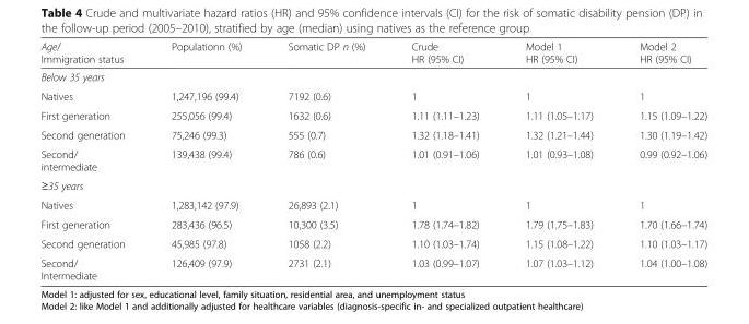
<table><thead><tr><td>Age/ Immigration status</td><td>Populationn (%)</td><td>Somatic DP n (%)</td><td>Crude HR (95% CI)</td><td>Model 1 HR (95% CI)</td><td>Model 2 HR (95% CI)</td></tr></thead><tbody><tr><td colspan="6">Below 35 years</td></tr><tr><td>Natives</td><td>1,247,196 (99.4)</td><td>7192 (0.6)</td><td>1</td><td>1</td><td>1</td></tr><tr><td>First generation</td><td>255,056 (99.4)</td><td>1632 (0.6)</td><td>1.11 (1.11–1.23)</td><td>1.11 (1.05–1.17)</td><td>1.15 (1.09–1.22)</td></tr><tr><td>Second generation</td><td>75,246 (99.3)</td><td>555 (0.7)</td><td>1.32 (1.18–1.41)</td><td>1.32 (1.21–1.44)</td><td>1.30 (1.19–1.42)</td></tr><tr><td>Second/ intermediate</td><td>139,438 (99.4)</td><td>786 (0.6)</td><td>1.01 (0.91–1.06)</td><td>1.01 (0.93–1.08)</td><td>0.99 (0.92–1.06)</td></tr><tr><td colspan="6">≥35 years</td></tr><tr><td>Natives</td><td>1,283,142 (97.9)</td><td>26,893 (2.1)</td><td>1</td><td>1</td><td>1</td></tr><tr><td>First generation</td><td>283,436 (96.5)</td><td>10,300 (3.5)</td><td>1.78 (1.74–1.82)</td><td>1.79 (1.75–1.83)</td><td>1.70 (1.66–1.74)</td></tr><tr><td>Second generation</td><td>45,985 (97.8)</td><td>1058 (2.2)</td><td>1.10 (1.03–1.74)</td><td>1.15 (1.08–1.22)</td><td>1.10 (1.03–1.17)</td></tr><tr><td>Second/ Intermediate</td><td>126,409 (97.9)</td><td>2731 (2.1)</td><td>1.03 (0.99–1.07)</td><td>1.07 (1.03–1.12)</td><td>1.04 (1.00–1.08)</td></tr></tbody></table>